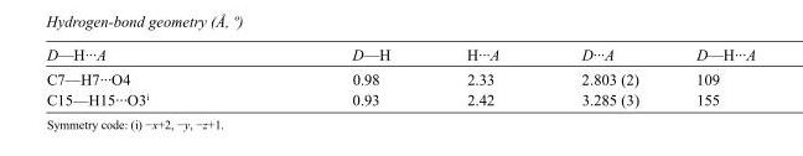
<table><tbody><tr><td>D—H···A</td><td>D—H</td><td>H···A</td><td>D···A</td><td>D—H···A</td></tr><tr><td>C7—H7···O4</td><td>0.98</td><td>2.33</td><td>2.803 (2)</td><td>109</td></tr><tr><td>C15—H15···O3<sup>i</sup></td><td>0.93</td><td>2.42</td><td>3.285 (3)</td><td>155</td></tr></tbody></table>